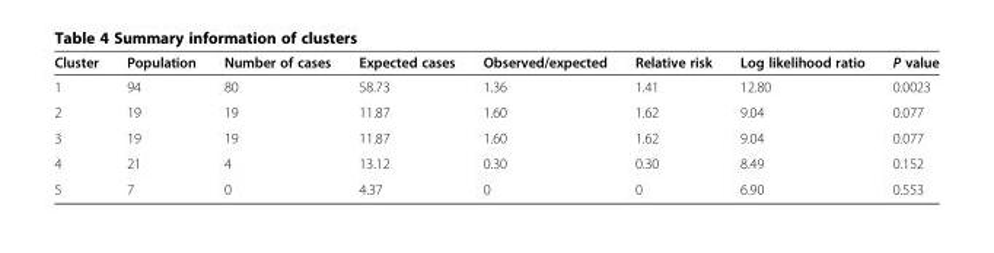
<table><thead><tr><td>Cluster</td><td>Population</td><td>Number of cases</td><td>Expected cases</td><td>Observed/expected</td><td>Relative risk</td><td>Log likelihood ratio</td><td>P value</td></tr></thead><tbody><tr><td>1</td><td>94</td><td>80</td><td>58.73</td><td>1.36</td><td>1.41</td><td>12.80</td><td>0.0023</td></tr><tr><td>2</td><td>19</td><td>19</td><td>11.87</td><td>1.60</td><td>1.62</td><td>9.04</td><td>0.077</td></tr><tr><td>3</td><td>19</td><td>19</td><td>11.87</td><td>1.60</td><td>1.62</td><td>9.04</td><td>0.077</td></tr><tr><td>4</td><td>21</td><td>4</td><td>13.12</td><td>0.30</td><td>0.30</td><td>8.49</td><td>0.152</td></tr><tr><td>5</td><td>7</td><td>0</td><td>4.37</td><td>0</td><td>0</td><td>6.90</td><td>0.553</td></tr></tbody></table>